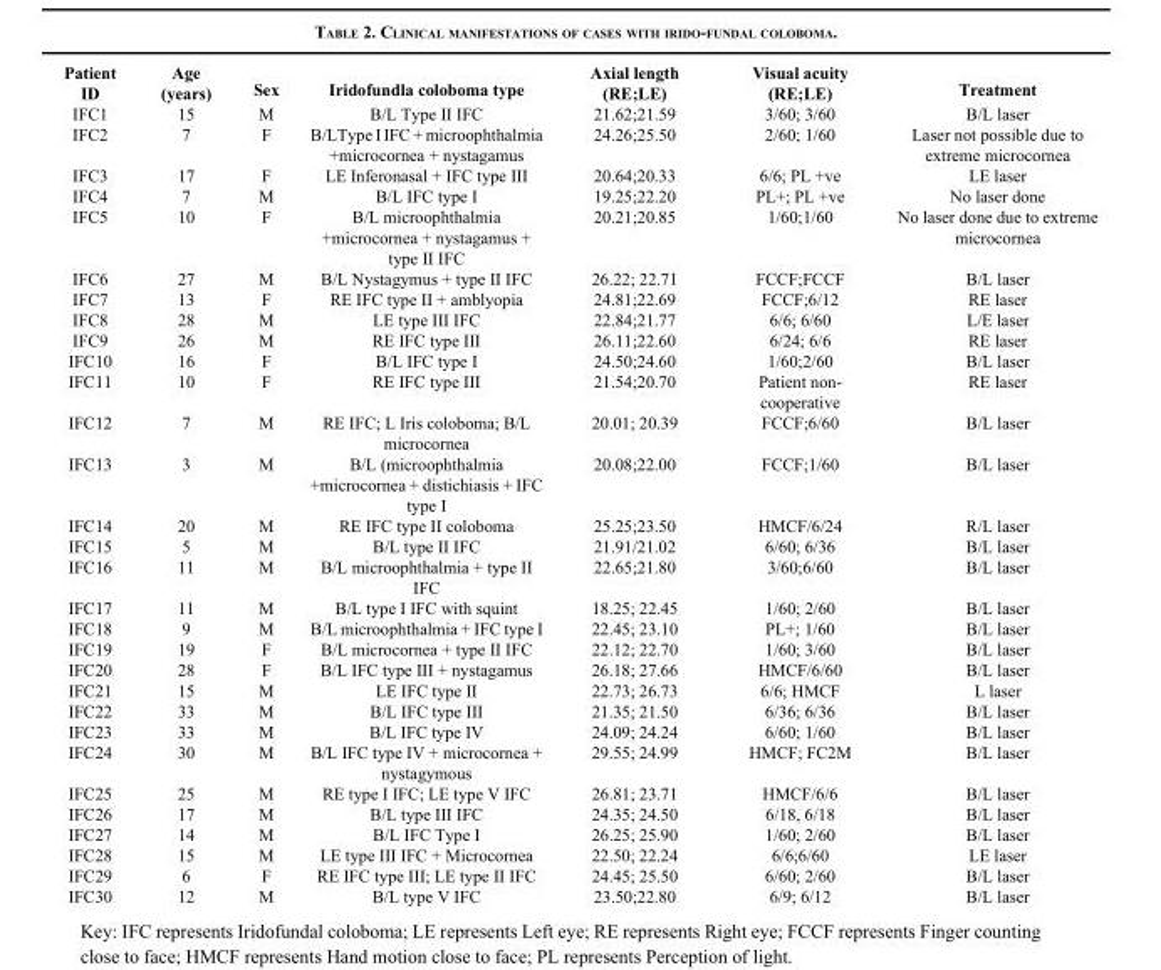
<table><thead><tr><td>Patient ID</td><td>Age (years)</td><td>Sex</td><td>Iridofundla coloboma type</td><td>Axial length (RE;LE)</td><td>Visual acuity (RE;LE)</td><td>Treatment</td></tr></thead><tbody><tr><td>IFC1</td><td>15</td><td>M</td><td>B/L Type II IFC</td><td>21.62;21.59</td><td>3/60; 3/60</td><td>B/L laser</td></tr><tr><td>IFC2</td><td>7</td><td>F</td><td>B/LType I IFC + microophthalmia +microcornea + nystagamus</td><td>24.26;25.50</td><td>2/60; 1/60</td><td>Laser not possible due to extreme microcornea</td></tr><tr><td>IFC3</td><td>17</td><td>F</td><td>LE Inferonasal + IFC type III</td><td>20.64;20.33</td><td>6/6; PL +ve</td><td>LE laser</td></tr><tr><td>IFC4</td><td>7</td><td>M</td><td>B/L IFC type I</td><td>19.25;22.20</td><td>PL+; PL +ve</td><td>No laser done</td></tr><tr><td>IFC5</td><td>10</td><td>F</td><td>B/L microophthalmia +microcornea + nystagamus + type II IFC</td><td>20.21;20.85</td><td>1/60;1/60</td><td>No laser done due to extreme microcornea</td></tr><tr><td>IFC6</td><td>27</td><td>M</td><td>B/L Nystagymus + type II IFC</td><td>26.22; 22.71</td><td>FCCF;FCCF</td><td>B/L laser</td></tr><tr><td>IFC7</td><td>13</td><td>F</td><td>RE IFC type II + amblyopia</td><td>24.81;22.69</td><td>FCCF;6/12</td><td>RE laser</td></tr><tr><td>IFC8</td><td>28</td><td>M</td><td>LE type III IFC</td><td>22.84;21.77</td><td>6/6; 6/60</td><td>L/E laser</td></tr><tr><td>IFC9</td><td>26</td><td>M</td><td>RE IFC type III</td><td>26.11;22.60</td><td>6/24; 6/6</td><td>RE laser</td></tr><tr><td>IFC10</td><td>16</td><td>F</td><td>B/L IFC type I</td><td>24.50;24.60</td><td>1/60;2/60</td><td>B/L laser</td></tr><tr><td>IFC11</td><td>10</td><td>F</td><td>RE IFC type III</td><td>21.54;20.70</td><td>Patient non- cooperative</td><td>RE laser</td></tr><tr><td>IFC12</td><td>7</td><td>M</td><td>RE IFC; L Iris coloboma; B/L microcornea</td><td>20.01; 20.39</td><td>FCCF;6/60</td><td>B/L laser</td></tr><tr><td>IFC13</td><td>3</td><td>M</td><td>B/L (microophthalmia +microcornea + distichiasis + IFC type I</td><td>20.08;22.00</td><td>FCCF;1/60</td><td>B/L laser</td></tr><tr><td>IFC14</td><td>20</td><td>M</td><td>RE IFC type II coloboma</td><td>25.25;23.50</td><td>HMCF/6/24</td><td>R/L laser</td></tr><tr><td>IFC15</td><td>5</td><td>M</td><td>B/L type II IFC</td><td>21.91/21.02</td><td>6/60; 6/36</td><td>B/L laser</td></tr><tr><td>IFC16</td><td>11</td><td>M</td><td>B/L microophthalmia + type II IFC</td><td>22.65;21.80</td><td>3/60;6/60</td><td>B/L laser</td></tr><tr><td>IFC17</td><td>11</td><td>M</td><td>B/L type I IFC with squint</td><td>18.25; 22.45</td><td>1/60; 2/60</td><td>B/L laser</td></tr><tr><td>IFC18</td><td>9</td><td>M</td><td>B/L microophthalmia + IFC type I</td><td>22.45; 23.10</td><td>PL+; 1/60</td><td>B/L laser</td></tr><tr><td>IFC19</td><td>19</td><td>F</td><td>B/L microcornea + type II IFC</td><td>22.12; 22.70</td><td>1/60; 3/60</td><td>B/L laser</td></tr><tr><td>IFC20</td><td>28</td><td>F</td><td>B/L IFC type III + nystagamus</td><td>26.18; 27.66</td><td>HMCF/6/60</td><td>B/L laser</td></tr><tr><td>IFC21</td><td>15</td><td>M</td><td>LE IFC type II</td><td>22.73; 26.73</td><td>6/6; HMCF</td><td>L laser</td></tr><tr><td>IFC22</td><td>33</td><td>M</td><td>B/L IFC type III</td><td>21.35; 21.50</td><td>6/36; 6/36</td><td>B/L laser</td></tr><tr><td>IFC23</td><td>33</td><td>M</td><td>B/L IFC type IV</td><td>24.09; 24.24</td><td>6/60; 1/60</td><td>B/L laser</td></tr><tr><td>IFC24</td><td>30</td><td>M</td><td>B/L IFC type IV + microcornea + nystagymous</td><td>29.55; 24.99</td><td>HMCF; FC2M</td><td>B/L laser</td></tr><tr><td>IFC25</td><td>25</td><td>M</td><td>RE type I IFC; LE type V IFC</td><td>26.81; 23.71</td><td>HMCF/6/6</td><td>B/L laser</td></tr><tr><td>IFC26</td><td>17</td><td>M</td><td>B/L type III IFC</td><td>24.35; 24.50</td><td>6/18, 6/18</td><td>B/L laser</td></tr><tr><td>IFC27</td><td>14</td><td>M</td><td>B/L IFC Type I</td><td>26.25; 25.90</td><td>1/60; 2/60</td><td>B/L laser</td></tr><tr><td>IFC28</td><td>15</td><td>M</td><td>LE type III IFC + Microcornea</td><td>22.50; 22.24</td><td>6/6;6/60</td><td>LE laser</td></tr><tr><td>IFC29</td><td>6</td><td>F</td><td>RE IFC type III; LE type II IFC</td><td>24.45; 25.50</td><td>6/60; 2/60</td><td>B/L laser</td></tr><tr><td>IFC30</td><td>12</td><td>M</td><td>B/L type V IFC</td><td>23.50;22.80</td><td>6/9; 6/12</td><td>B/L laser</td></tr></tbody></table>